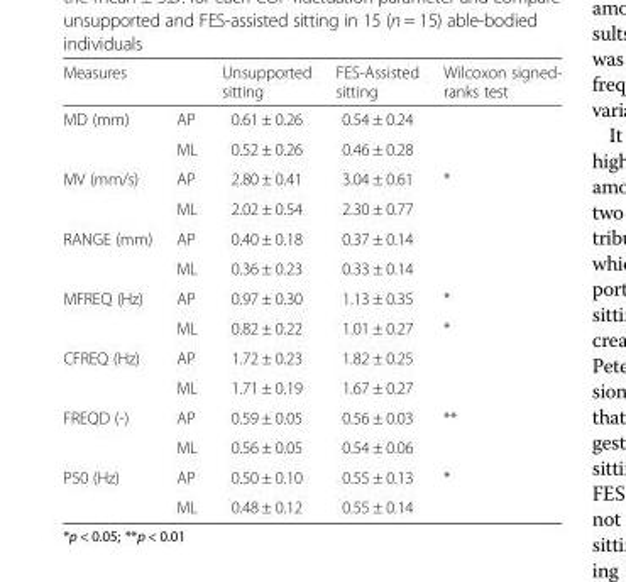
<table><thead><tr><td>Measures</td><td></td><td>Unsupported sitting</td><td>FES-Assisted sitting</td><td>Wilcoxon signed- ranks test</td></tr></thead><tbody><tr><td rowspan="2">MD (mm)</td><td>AP</td><td>0.61 ± 0.26</td><td>0.54 ± 0.24</td><td></td></tr><tr><td>ML</td><td>0.52 ± 0.26</td><td>0.46 ± 0.28</td><td></td></tr><tr><td rowspan="2">MV (mm/s)</td><td>AP</td><td>2.80 ± 0.41</td><td>3.04 ± 0.61</td><td>*</td></tr><tr><td>ML</td><td>2.02 ± 0.54</td><td>2.30 ± 0.77</td><td></td></tr><tr><td rowspan="2">RANGE (mm)</td><td>AP</td><td>0.40 ± 0.18</td><td>0.37 ± 0.14</td><td></td></tr><tr><td>ML</td><td>0.36 ± 0.23</td><td>0.33 ± 0.14</td><td></td></tr><tr><td rowspan="2">MFREQ (Hz)</td><td>AP</td><td>0.97 ± 0.30</td><td>1.13 ± 0.35</td><td>*</td></tr><tr><td>ML</td><td>0.82 ± 0.22</td><td>1.01 ± 0.27</td><td>*</td></tr><tr><td rowspan="2">CFREQ (Hz)</td><td>AP</td><td>1.72 ± 0.23</td><td>1.82 ± 0.25</td><td></td></tr><tr><td>ML</td><td>1.71 ± 0.19</td><td>1.67 ± 0.27</td><td></td></tr><tr><td rowspan="2">FREQD (-)</td><td>AP</td><td>0.59 ± 0.05</td><td>0.56 ± 0.03</td><td>**</td></tr><tr><td>ML</td><td>0.56 ± 0.05</td><td>0.54 ± 0.06</td><td></td></tr><tr><td rowspan="2">P50 (Hz)</td><td>AP</td><td>0.50 ± 0.10</td><td>0.55 ± 0.13</td><td>*</td></tr><tr><td>ML</td><td>0.48 ± 0.12</td><td>0.55 ± 0.14</td><td></td></tr></tbody></table>